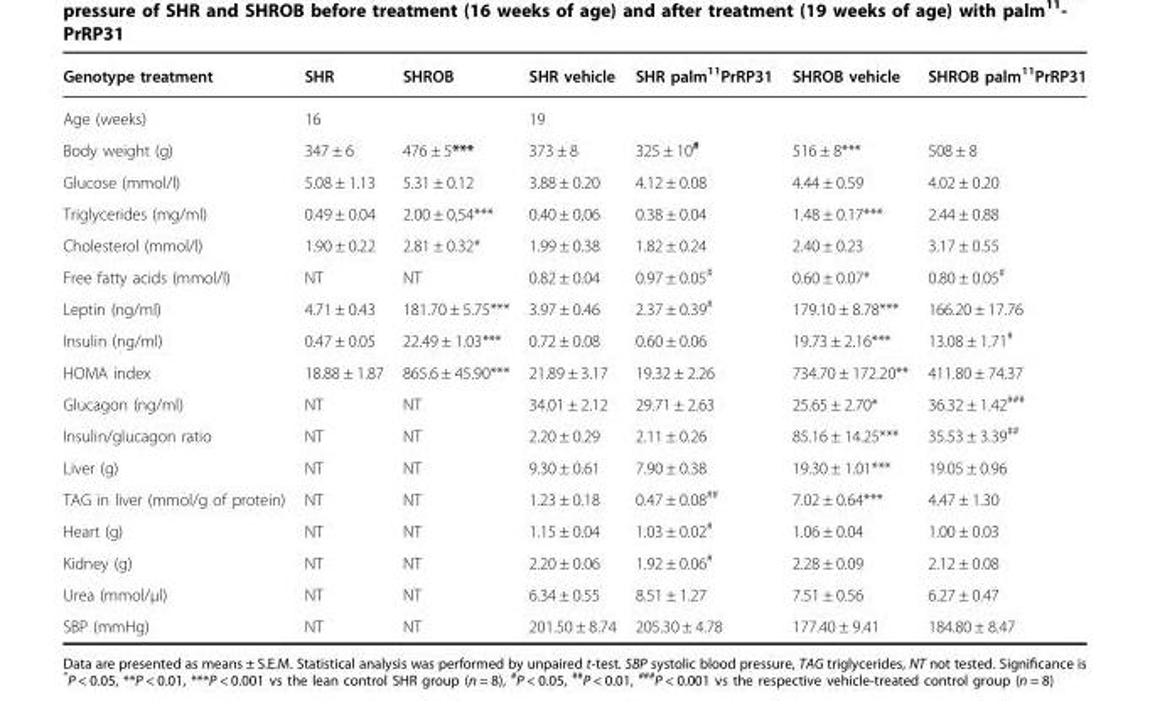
<table><thead><tr><td>Genotype treatment</td><td>SHR</td><td>SHROB</td><td>SHR vehicle</td><td>SHR palm<sup>11</sup>PrRP31</td><td>SHROB vehicle</td><td>SHROB palm<sup>11</sup>PrRP31</td></tr></thead><tbody><tr><td>Age (weeks)</td><td colspan="2">16</td><td colspan="4">19</td></tr><tr><td>Body weight (g)</td><td>347 ± 6</td><td>476 ± 5***</td><td>373 ± 8</td><td>325 ± 10<sup>#</sup></td><td>516 ± 8***</td><td>508 ± 8</td></tr><tr><td>Glucose (mmol/l)</td><td>5.08 ± 1.13</td><td>5.31 ± 0.12</td><td>3.88 ± 0.20</td><td>4.12 ± 0.08</td><td>4.44 ± 0.59</td><td>4.02 ± 0.20</td></tr><tr><td>Triglycerides (mg/ml)</td><td>0.49 ± 0.04</td><td>2.00 ± 0,54***</td><td>0.40 ± 0,06</td><td>0.38 ± 0.04</td><td>1.48 ± 0.17***</td><td>2.44 ± 0.88</td></tr><tr><td>Cholesterol (mmol/l)</td><td>1.90 ± 0.22</td><td>2.81 ± 0.32*</td><td>1.99 ± 0.38</td><td>1.82 ± 0.24</td><td>2.40 ± 0.23</td><td>3.17 ± 0.55</td></tr><tr><td>Free fatty acids (mmol/l)</td><td>NT</td><td>NT</td><td>0.82 ± 0.04</td><td>0.97 ± 0.05<sup>#</sup></td><td>0.60 ± 0.07*</td><td>0.80 ± 0.05<sup>#</sup></td></tr><tr><td>Leptin (ng/ml)</td><td>4.71 ± 0.43</td><td>181.70 ± 5.75***</td><td>3.97 ± 0.46</td><td>2.37 ± 0.39<sup>#</sup></td><td>179.10 ± 8.78***</td><td>166.20 ± 17.76</td></tr><tr><td>Insulin (ng/ml)</td><td>0.47 ± 0.05</td><td>22.49 ± 1.03***</td><td>0.72 ± 0.08</td><td>0.60 ± 0.06</td><td>19.73 ± 2.16***</td><td>13.08 ± 1.71<sup>#</sup></td></tr><tr><td>HOMA index</td><td>18.88 ± 1.87</td><td>865.6 ± 45.90***</td><td>21.89 ± 3.17</td><td>19.32 ± 2.26</td><td>734.70 ± 172.20**</td><td>411.80 ± 74.37</td></tr><tr><td>Glucagon (ng/ml)</td><td>NT</td><td>NT</td><td>34.01 ± 2.12</td><td>29.71 ± 2.63</td><td>25.65 ± 2.70*</td><td>36.32 ± 1.42<sup>###</sup></td></tr><tr><td>Insulin/glucagon ratio</td><td>NT</td><td>NT</td><td>2.20 ± 0.29</td><td>2.11 ± 0.26</td><td>85.16 ± 14.25***</td><td>35.53 ± 3.39<sup>##</sup></td></tr><tr><td>Liver (g)</td><td>NT</td><td>NT</td><td>9.30 ± 0.61</td><td>7.90 ± 0.38</td><td>19.30 ± 1.01***</td><td>19.05 ± 0.96</td></tr><tr><td>TAG in liver (mmol/g of protein)</td><td>NT</td><td>NT</td><td>1.23 ± 0.18</td><td>0.47 ± 0.08<sup>##</sup></td><td>7.02 ± 0.64***</td><td>4.47 ± 1.30</td></tr><tr><td>Heart (g)</td><td>NT</td><td>NT</td><td>1.15 ± 0.04</td><td>1.03 ± 0.02<sup>#</sup></td><td>1.06 ± 0.04</td><td>1.00 ± 0.03</td></tr><tr><td>Kidney (g)</td><td>NT</td><td>NT</td><td>2.20 ± 0.06</td><td>1.92 ± 0.06<sup>#</sup></td><td>2.28 ± 0.09</td><td>2.12 ± 0.08</td></tr><tr><td>Urea (mmol/µl)</td><td>NT</td><td>NT</td><td>6.34 ± 0.55</td><td>8.51 ± 1.27</td><td>7.51 ± 0.56</td><td>6.27 ± 0.47</td></tr><tr><td>SBP (mmHg)</td><td>NT</td><td>NT</td><td>201.50 ± 8.74</td><td>205.30 ± 4.78</td><td>177.40 ± 9.41</td><td>184.80 ± 8.47</td></tr></tbody></table>